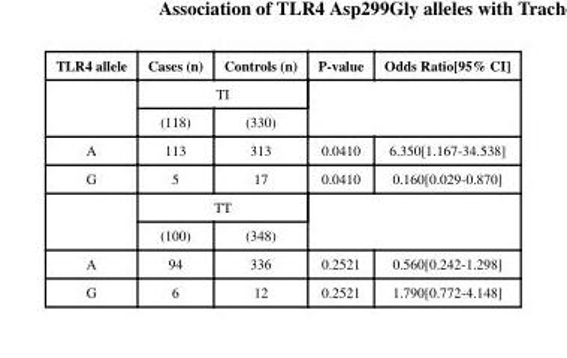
<table><thead><tr><td>TLR4 allele</td><td>Cases (n)</td><td>Controls (n)</td><td>P-value</td><td>Odds Ratio[95% CI]</td></tr></thead><tbody><tr><td rowspan="2"></td><td colspan="2">TI</td><td rowspan="2" colspan="2"></td></tr><tr><td>(118)</td><td>(330)</td></tr><tr><td>A</td><td>113</td><td>313</td><td>0.0410</td><td>6.350[1.167-34.538]</td></tr><tr><td rowspan="3">G</td><td>5</td><td>17</td><td>0.0410</td><td>0.160[0.029-0.870]</td></tr><tr><td colspan="2">TT</td><td rowspan="2" colspan="2"></td></tr><tr><td>(100)</td><td>(348)</td></tr><tr><td>A</td><td>94</td><td>336</td><td>0.2521</td><td>0.560[0.242-1.298]</td></tr><tr><td>G</td><td>6</td><td>12</td><td>0.2521</td><td>1.790[0.772-4.148]</td></tr></tbody></table>